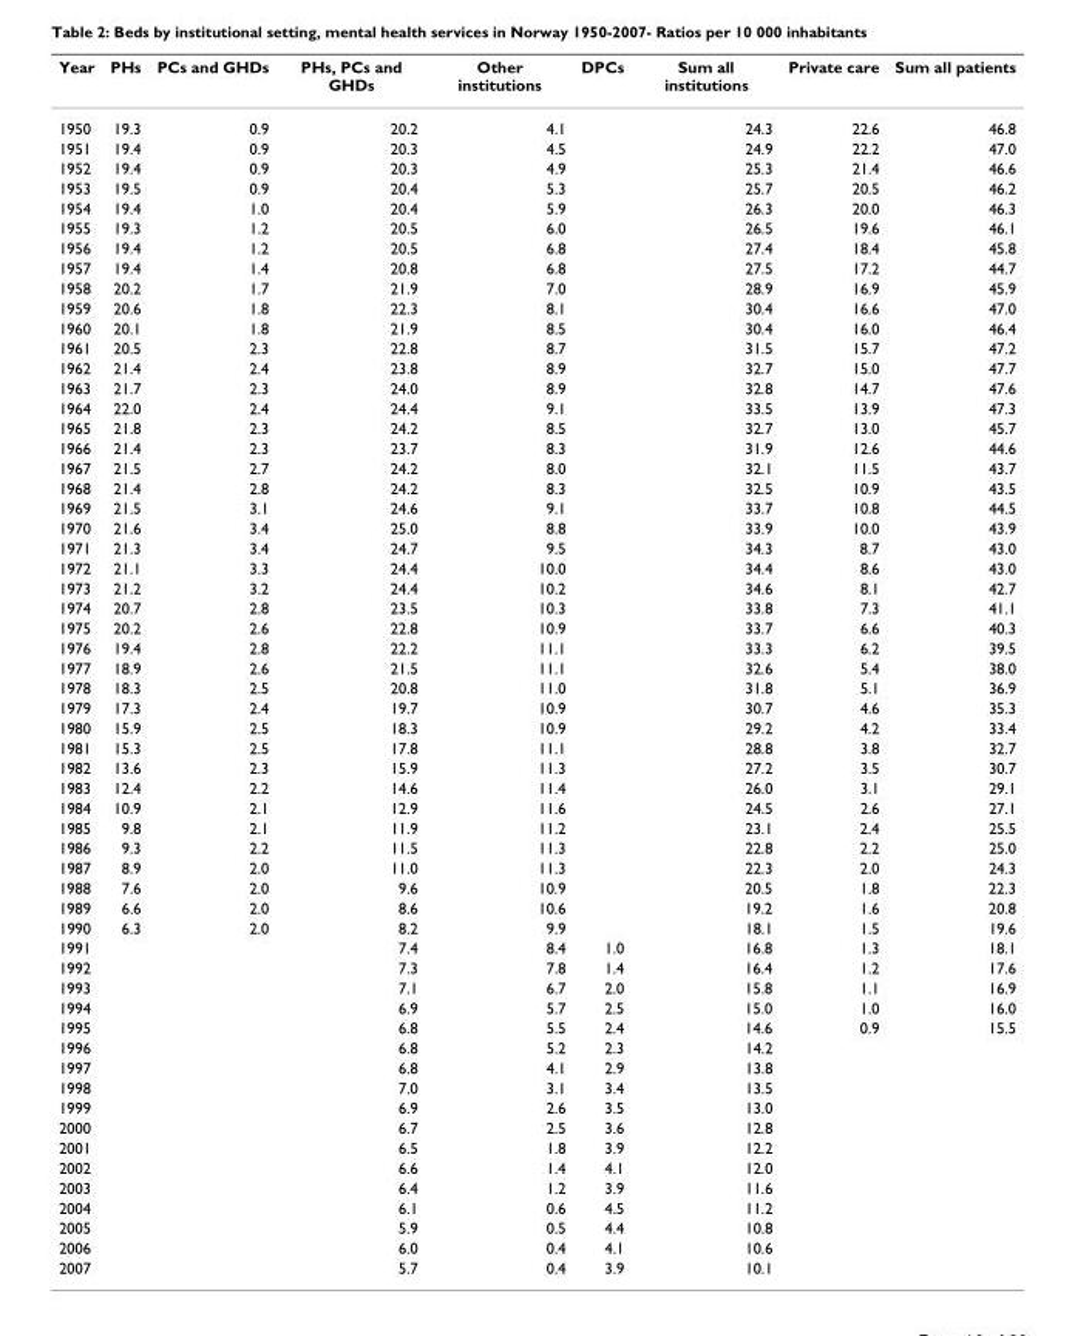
<table><thead><tr><td>Year</td><td>PHs</td><td>PCs and GHDs</td><td>PHs, PCs and GHDs</td><td>Other institutions</td><td>DPCs</td><td>Sum all institutions</td><td>Private care</td><td>Sum all patients</td></tr></thead><tbody><tr><td>1950</td><td>19.3</td><td>0.9</td><td>20.2</td><td>4.1</td><td></td><td>24.3</td><td>22.6</td><td>46.8</td></tr><tr><td>1951</td><td>19.4</td><td>0.9</td><td>20.3</td><td>4.5</td><td></td><td>24.9</td><td>22.2</td><td>47.0</td></tr><tr><td>1952</td><td>19.4</td><td>0.9</td><td>20.3</td><td>4.9</td><td></td><td>25.3</td><td>21.4</td><td>46.6</td></tr><tr><td>1953</td><td>19.5</td><td>0.9</td><td>20.4</td><td>5.3</td><td></td><td>25.7</td><td>20.5</td><td>46.2</td></tr><tr><td>1954</td><td>19.4</td><td>1.0</td><td>20.4</td><td>5.9</td><td></td><td>26.3</td><td>20.0</td><td>46.3</td></tr><tr><td>1955</td><td>19.3</td><td>1.2</td><td>20.5</td><td>6.0</td><td></td><td>26.5</td><td>19.6</td><td>46.1</td></tr><tr><td>1956</td><td>19.4</td><td>1.2</td><td>20.5</td><td>6.8</td><td></td><td>27.4</td><td>18.4</td><td>45.8</td></tr><tr><td>1957</td><td>19.4</td><td>1.4</td><td>20.8</td><td>6.8</td><td></td><td>27.5</td><td>17.2</td><td>44.7</td></tr><tr><td>1958</td><td>20.2</td><td>1.7</td><td>21.9</td><td>7.0</td><td></td><td>28.9</td><td>16.9</td><td>45.9</td></tr><tr><td>1959</td><td>20.6</td><td>1.8</td><td>22.3</td><td>8.1</td><td></td><td>30.4</td><td>16.6</td><td>47.0</td></tr><tr><td>1960</td><td>20.1</td><td>1.8</td><td>21.9</td><td>8.5</td><td></td><td>30.4</td><td>16.0</td><td>46.4</td></tr><tr><td>1961</td><td>20.5</td><td>2.3</td><td>22.8</td><td>8.7</td><td></td><td>31.5</td><td>15.7</td><td>47.2</td></tr><tr><td>1962</td><td>21.4</td><td>2.4</td><td>23.8</td><td>8.9</td><td></td><td>32.7</td><td>15.0</td><td>47.7</td></tr><tr><td>1963</td><td>21.7</td><td>2.3</td><td>24.0</td><td>8.9</td><td></td><td>32.8</td><td>14.7</td><td>47.6</td></tr><tr><td>1964</td><td>22.0</td><td>2.4</td><td>24.4</td><td>9.1</td><td></td><td>33.5</td><td>13.9</td><td>47.3</td></tr><tr><td>1965</td><td>21.8</td><td>2.3</td><td>24.2</td><td>8.5</td><td></td><td>32.7</td><td>13.0</td><td>45.7</td></tr><tr><td>1966</td><td>21.4</td><td>2.3</td><td>23.7</td><td>8.3</td><td></td><td>31.9</td><td>12.6</td><td>44.6</td></tr><tr><td>1967</td><td>21.5</td><td>2.7</td><td>24.2</td><td>8.0</td><td></td><td>32.1</td><td>11.5</td><td>43.7</td></tr><tr><td>1968</td><td>21.4</td><td>2.8</td><td>24.2</td><td>8.3</td><td></td><td>32.5</td><td>10.9</td><td>43.5</td></tr><tr><td>1969</td><td>21.5</td><td>3.1</td><td>24.6</td><td>9.1</td><td></td><td>33.7</td><td>10.8</td><td>44.5</td></tr><tr><td>1970</td><td>21.6</td><td>3.4</td><td>25.0</td><td>8.8</td><td></td><td>33.9</td><td>10.0</td><td>43.9</td></tr><tr><td>1971</td><td>21.3</td><td>3.4</td><td>24.7</td><td>9.5</td><td></td><td>34.3</td><td>8.7</td><td>43.0</td></tr><tr><td>1972</td><td>21.1</td><td>3.3</td><td>24.4</td><td>10.0</td><td></td><td>34.4</td><td>8.6</td><td>43.0</td></tr><tr><td>1973</td><td>21.2</td><td>3.2</td><td>24.4</td><td>10.2</td><td></td><td>34.6</td><td>8.1</td><td>42.7</td></tr><tr><td>1974</td><td>20.7</td><td>2.8</td><td>23.5</td><td>10.3</td><td></td><td>33.8</td><td>7.3</td><td>41.1</td></tr><tr><td>1975</td><td>20.2</td><td>2.6</td><td>22.8</td><td>10.9</td><td></td><td>33.7</td><td>6.6</td><td>40.3</td></tr><tr><td>1976</td><td>19.4</td><td>2.8</td><td>22.2</td><td>11.1</td><td></td><td>33.3</td><td>6.2</td><td>39.5</td></tr><tr><td>1977</td><td>18.9</td><td>2.6</td><td>21.5</td><td>11.1</td><td></td><td>32.6</td><td>5.4</td><td>38.0</td></tr><tr><td>1978</td><td>18.3</td><td>2.5</td><td>20.8</td><td>11.0</td><td></td><td>31.8</td><td>5.1</td><td>36.9</td></tr><tr><td>1979</td><td>17.3</td><td>2.4</td><td>19.7</td><td>10.9</td><td></td><td>30.7</td><td>4.6</td><td>35.3</td></tr><tr><td>1980</td><td>15.9</td><td>2.5</td><td>18.3</td><td>10.9</td><td></td><td>29.2</td><td>4.2</td><td>33.4</td></tr><tr><td>1981</td><td>15.3</td><td>2.5</td><td>17.8</td><td>11.1</td><td></td><td>28.8</td><td>3.8</td><td>32.7</td></tr><tr><td>1982</td><td>13.6</td><td>2.3</td><td>15.9</td><td>11.3</td><td></td><td>27.2</td><td>3.5</td><td>30.7</td></tr><tr><td>1983</td><td>12.4</td><td>2.2</td><td>14.6</td><td>11.4</td><td></td><td>26.0</td><td>3.1</td><td>29.1</td></tr><tr><td>1984</td><td>10.9</td><td>2.1</td><td>12.9</td><td>11.6</td><td></td><td>24.5</td><td>2.6</td><td>27.1</td></tr><tr><td>1985</td><td>9.8</td><td>2.1</td><td>11.9</td><td>11.2</td><td></td><td>23.1</td><td>2.4</td><td>25.5</td></tr><tr><td>1986</td><td>9.3</td><td>2.2</td><td>11.5</td><td>11.3</td><td></td><td>22.8</td><td>2.2</td><td>25.0</td></tr><tr><td>1987</td><td>8.9</td><td>2.0</td><td>11.0</td><td>11.3</td><td></td><td>22.3</td><td>2.0</td><td>24.3</td></tr><tr><td>1988</td><td>7.6</td><td>2.0</td><td>9.6</td><td>10.9</td><td></td><td>20.5</td><td>1.8</td><td>22.3</td></tr><tr><td>1989</td><td>6.6</td><td>2.0</td><td>8.6</td><td>10.6</td><td></td><td>19.2</td><td>1.6</td><td>20.8</td></tr><tr><td>1990</td><td>6.3</td><td>2.0</td><td>8.2</td><td>9.9</td><td></td><td>18.1</td><td>1.5</td><td>19.6</td></tr><tr><td>1991</td><td></td><td></td><td>7.4</td><td>8.4</td><td>1.0</td><td>16.8</td><td>1.3</td><td>18.1</td></tr><tr><td>1992</td><td></td><td></td><td>7.3</td><td>7.8</td><td>1.4</td><td>16.4</td><td>1.2</td><td>17.6</td></tr><tr><td>1993</td><td></td><td></td><td>7.1</td><td>6.7</td><td>2.0</td><td>15.8</td><td>1.1</td><td>16.9</td></tr><tr><td>1994</td><td></td><td></td><td>6.9</td><td>5.7</td><td>2.5</td><td>15.0</td><td>1.0</td><td>16.0</td></tr><tr><td>1995</td><td></td><td></td><td>6.8</td><td>5.5</td><td>2.4</td><td>14.6</td><td>0.9</td><td>15.5</td></tr><tr><td>1996</td><td></td><td></td><td>6.8</td><td>5.2</td><td>2.3</td><td>14.2</td><td></td><td></td></tr><tr><td>1997</td><td></td><td></td><td>6.8</td><td>4.1</td><td>2.9</td><td>13.8</td><td></td><td></td></tr><tr><td>1998</td><td></td><td></td><td>7.0</td><td>3.1</td><td>3.4</td><td>13.5</td><td></td><td></td></tr><tr><td>1999</td><td></td><td></td><td>6.9</td><td>2.6</td><td>3.5</td><td>13.0</td><td></td><td></td></tr><tr><td>2000</td><td></td><td></td><td>6.7</td><td>2.5</td><td>3.6</td><td>12.8</td><td></td><td></td></tr><tr><td>2001</td><td></td><td></td><td>6.5</td><td>1.8</td><td>3.9</td><td>12.2</td><td></td><td></td></tr><tr><td>2002</td><td></td><td></td><td>6.6</td><td>1.4</td><td>4.1</td><td>12.0</td><td></td><td></td></tr><tr><td>2003</td><td></td><td></td><td>6.4</td><td>1.2</td><td>3.9</td><td>11.6</td><td></td><td></td></tr><tr><td>2004</td><td></td><td></td><td>6.1</td><td>0.6</td><td>4.5</td><td>11.2</td><td></td><td></td></tr><tr><td>2005</td><td></td><td></td><td>5.9</td><td>0.5</td><td>4.4</td><td>10.8</td><td></td><td></td></tr><tr><td>2006</td><td></td><td></td><td>6.0</td><td>0.4</td><td>4.1</td><td>10.6</td><td></td><td></td></tr><tr><td>2007</td><td></td><td></td><td>5.7</td><td>0.4</td><td>3.9</td><td>10.1</td><td></td><td></td></tr></tbody></table>